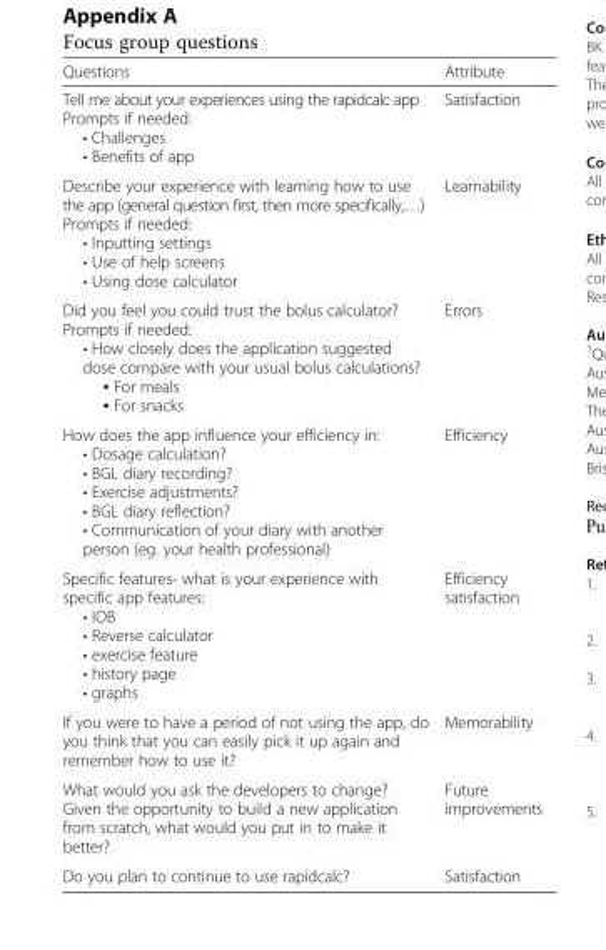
<table><thead><tr><td>Questions</td><td>Attribute</td></tr></thead><tbody><tr><td>Tell me about your experiences using the rapidcalc app Prompts if needed: • Challenges • Benefits of app</td><td>Satisfaction</td></tr><tr><td>Describe your experience with learning how to use the app (general question first, then more specifically,…) Prompts if needed: • Inputting settings • Use of help screens • Using dose calculator</td><td>Learnability</td></tr><tr><td>Did you feel you could trust the bolus calculator? Prompts if needed: • How closely does the application suggested dose compare with your usual bolus calculations? ▪ For meals ▪ For snacks</td><td>Errors</td></tr><tr><td>How does the app influence your efficiency in: • Dosage calculation? • BGL diary recording? • Exercise adjustments? • BGL diary reflection? • Communication of your diary with another person (eg. your health professional)</td><td>Efficiency</td></tr><tr><td>Specific features- what is your experience with specific app features: • IOB • Reverse calculator • exercise feature • history page • graphs</td><td>Efficiency satisfaction</td></tr><tr><td>If you were to have a period of not using the app, do you think that you can easily pick it up again and remember how to use it?</td><td>Memorability</td></tr><tr><td>What would you ask the developers to change? Given the opportunity to build a new application from scratch, what would you put in to make it better?</td><td>Future improvements</td></tr><tr><td>Do you plan to continue to use rapidcalc?</td><td>Satisfaction</td></tr></tbody></table>